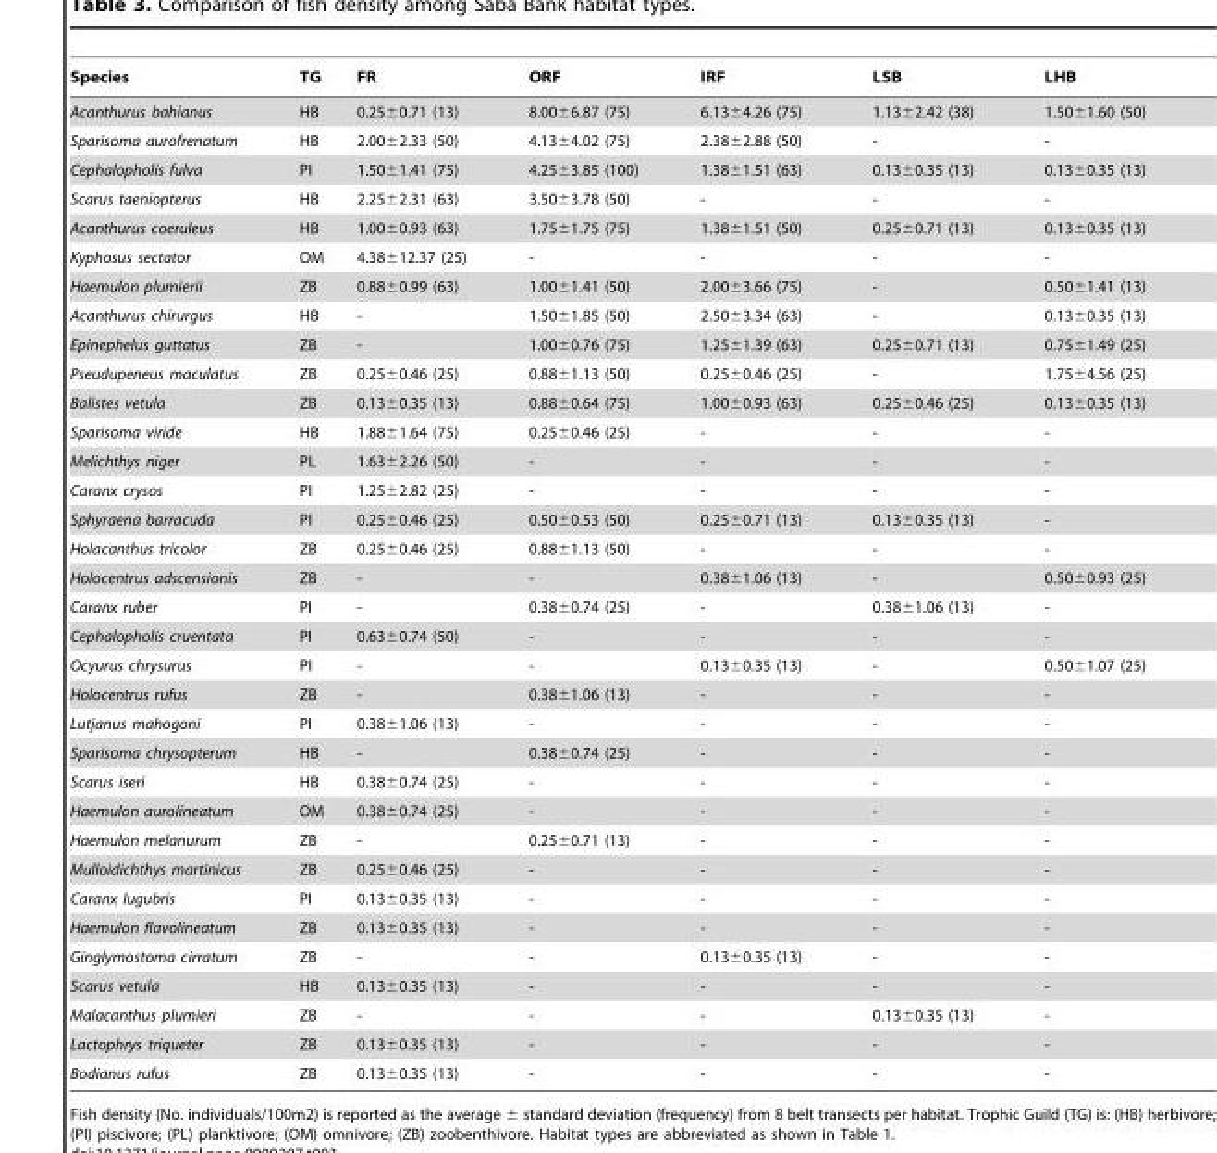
<table><thead><tr><td>Species</td><td>TG</td><td>FR</td><td>ORF</td><td>IRF</td><td>LSB</td><td>LHB</td></tr></thead><tbody><tr><td>Acanthurus bahianus</td><td>HB</td><td>0.25±0.71 (13)</td><td>8.00±6.87 (75)</td><td>6.13±4.26 (75)</td><td>1.13±2.42 (38)</td><td>1.50±1.60 (50)</td></tr><tr><td>Sparisoma aurofrenatum</td><td>HB</td><td>2.00±2.33 (50)</td><td>4.13±4.02 (75)</td><td>2.38±2.88 (50)</td><td>-</td><td>-</td></tr><tr><td>Cephalopholis fulva</td><td>PI</td><td>1.50±1.41 (75)</td><td>4.25±3.85 (100)</td><td>1.38±1.51 (63)</td><td>0.13±0.35 (13)</td><td>0.13±0.35 (13)</td></tr><tr><td>Scarus taeniopterus</td><td>HB</td><td>2.25±2.31 (63)</td><td>3.50±3.78 (50)</td><td>-</td><td>-</td><td>-</td></tr><tr><td>Acanthurus coeruleus</td><td>HB</td><td>1.00±0.93 (63)</td><td>1.75±1.75 (75)</td><td>1.38±1.51 (50)</td><td>0.25±0.71 (13)</td><td>0.13±0.35 (13)</td></tr><tr><td>Kyphosus sectator</td><td>OM</td><td>4.38±12.37 (25)</td><td>-</td><td>-</td><td>-</td><td>-</td></tr><tr><td>Haemulon plumierii</td><td>ZB</td><td>0.88±0.99 (63)</td><td>1.00±1.41 (50)</td><td>2.00±3.66 (75)</td><td>-</td><td>0.50±1.41 (13)</td></tr><tr><td>Acanthurus chirurgus</td><td>HB</td><td>-</td><td>1.50±1.85 (50)</td><td>2.50±3.34 (63)</td><td>-</td><td>0.13±0.35 (13)</td></tr><tr><td>Epinephelus guttatus</td><td>ZB</td><td>-</td><td>1.00±0.76 (75)</td><td>1.25±1.39 (63)</td><td>0.25±0.71 (13)</td><td>0.75±1.49 (25)</td></tr><tr><td>Pseudupeneus maculatus</td><td>ZB</td><td>0.25±0.46 (25)</td><td>0.88±1.13 (50)</td><td>0.25±0.46 (25)</td><td>-</td><td>1.75±4.56 (25)</td></tr><tr><td>Balistes vetula</td><td>ZB</td><td>0.13±0.35 (13)</td><td>0.88±0.64 (75)</td><td>1.00±0.93 (63)</td><td>0.25±0.46 (25)</td><td>0.13±0.35 (13)</td></tr><tr><td>Sparisoma viride</td><td>HB</td><td>1.88±1.64 (75)</td><td>0.25±0.46 (25)</td><td>-</td><td>-</td><td>-</td></tr><tr><td>Melichthys niger</td><td>PL</td><td>1.63±2.26 (50)</td><td>-</td><td>-</td><td>-</td><td>-</td></tr><tr><td>Caranx crysos</td><td>PI</td><td>1.25±2.82 (25)</td><td>-</td><td>-</td><td>-</td><td>-</td></tr><tr><td>Sphyraena barracuda</td><td>PI</td><td>0.25±0.46 (25)</td><td>0.50±0.53 (50)</td><td>0.25±0.71 (13)</td><td>0.13±0.35 (13)</td><td>-</td></tr><tr><td>Holacanthus tricolor</td><td>ZB</td><td>0.25±0.46 (25)</td><td>0.88±1.13 (50)</td><td>-</td><td>-</td><td>-</td></tr><tr><td>Holocentrus adscensionis</td><td>ZB</td><td>-</td><td>-</td><td>0.38±1.06 (13)</td><td>-</td><td>0.50±0.93 (25)</td></tr><tr><td>Caranx ruber</td><td>PI</td><td>-</td><td>0.38±0.74 (25)</td><td>-</td><td>0.38±1.06 (13)</td><td>-</td></tr><tr><td>Cephalopholis cruentata</td><td>PI</td><td>0.63±0.74 (50)</td><td>-</td><td>-</td><td>-</td><td>-</td></tr><tr><td>Ocyurus chrysurus</td><td>PI</td><td>-</td><td>-</td><td>0.13±0.35 (13)</td><td>-</td><td>0.50±1.07 (25)</td></tr><tr><td>Holocentrus rufus</td><td>ZB</td><td>-</td><td>0.38±1.06 (13)</td><td>-</td><td>-</td><td>-</td></tr><tr><td>Lutjanus mahogoni</td><td>PI</td><td>0.38±1.06 (13)</td><td>-</td><td>-</td><td>-</td><td>-</td></tr><tr><td>Sparisoma chrysopterum</td><td>HB</td><td>-</td><td>0.38±0.74 (25)</td><td>-</td><td>-</td><td>-</td></tr><tr><td>Scarus iseri</td><td>HB</td><td>0.38±0.74 (25)</td><td>-</td><td>-</td><td>-</td><td>-</td></tr><tr><td>Haemulon aurolineatum</td><td>OM</td><td>0.38±0.74 (25)</td><td>-</td><td>-</td><td>-</td><td>-</td></tr><tr><td>Haemulon melanurum</td><td>ZB</td><td>-</td><td>0.25±0.71 (13)</td><td>-</td><td>-</td><td>-</td></tr><tr><td>Mulloidichthys martinicus</td><td>ZB</td><td>0.25±0.46 (25)</td><td>-</td><td>-</td><td>-</td><td>-</td></tr><tr><td>Caranx lugubris</td><td>PI</td><td>0.13±0.35 (13)</td><td>-</td><td>-</td><td>-</td><td>-</td></tr><tr><td>Haemulon flavolineatum</td><td>ZB</td><td>0.13±0.35 (13)</td><td>-</td><td>-</td><td>-</td><td>-</td></tr><tr><td>Ginglymostoma cirratum</td><td>ZB</td><td>-</td><td>-</td><td>0.13±0.35 (13)</td><td>-</td><td>-</td></tr><tr><td>Scarus vetula</td><td>HB</td><td>0.13±0.35 (13)</td><td>-</td><td>-</td><td>-</td><td>-</td></tr><tr><td>Malacanthus plumieri</td><td>ZB</td><td>-</td><td>-</td><td>-</td><td>0.13±0.35 (13)</td><td>-</td></tr><tr><td>Lactophrys triqueter</td><td>ZB</td><td>0.13±0.35 (13)</td><td>-</td><td>-</td><td>-</td><td>-</td></tr><tr><td>Bodianus rufus</td><td>ZB</td><td>0.13±0.35 (13)</td><td>-</td><td>-</td><td>-</td><td>-</td></tr></tbody></table>